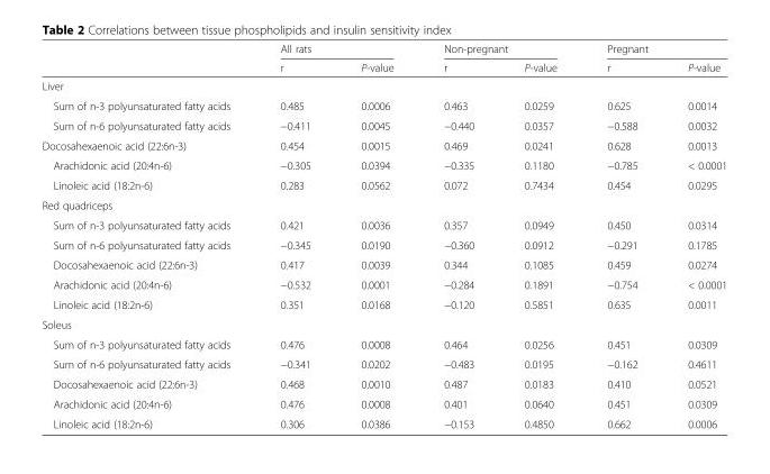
<table><thead><tr><td rowspan="2"></td><td colspan="2">All rats</td><td colspan="2">Non-pregnant</td><td colspan="2">Pregnant</td></tr><tr><td>r</td><td>P-value</td><td>r</td><td>P-value</td><td>r</td><td>P-value</td></tr></thead><tbody><tr><td colspan="7">Liver</td></tr><tr><td>Sum of n-3 polyunsaturated fatty acids</td><td>0.485</td><td>0.0006</td><td>0.463</td><td>0.0259</td><td>0.625</td><td>0.0014</td></tr><tr><td>Sum of n-6 polyunsaturated fatty acids</td><td>−0.411</td><td>0.0045</td><td>−0.440</td><td>0.0357</td><td>−0.588</td><td>0.0032</td></tr><tr><td>Docosahexaenoic acid (22:6n-3)</td><td>0.454</td><td>0.0015</td><td>0.469</td><td>0.0241</td><td>0.628</td><td>0.0013</td></tr><tr><td>Arachidonic acid (20:4n-6)</td><td>−0.305</td><td>0.0394</td><td>−0.335</td><td>0.1180</td><td>−0.785</td><td>&lt; 0.0001</td></tr><tr><td>Linoleic acid (18:2n-6)</td><td>0.283</td><td>0.0562</td><td>0.072</td><td>0.7434</td><td>0.454</td><td>0.0295</td></tr><tr><td colspan="7">Red quadriceps</td></tr><tr><td>Sum of n-3 polyunsaturated fatty acids</td><td>0.421</td><td>0.0036</td><td>0.357</td><td>0.0949</td><td>0.450</td><td>0.0314</td></tr><tr><td>Sum of n-6 polyunsaturated fatty acids</td><td>−0.345</td><td>0.0190</td><td>−0.360</td><td>0.0912</td><td>−0.291</td><td>0.1785</td></tr><tr><td>Docosahexaenoic acid (22:6n-3)</td><td>0.417</td><td>0.0039</td><td>0.344</td><td>0.1085</td><td>0.459</td><td>0.0274</td></tr><tr><td>Arachidonic acid (20:4n-6)</td><td>−0.532</td><td>0.0001</td><td>−0.284</td><td>0.1891</td><td>−0.754</td><td>&lt; 0.0001</td></tr><tr><td>Linoleic acid (18:2n-6)</td><td>0.351</td><td>0.0168</td><td>−0.120</td><td>0.5851</td><td>0.635</td><td>0.0011</td></tr><tr><td colspan="7">Soleus</td></tr><tr><td>Sum of n-3 polyunsaturated fatty acids</td><td>0.476</td><td>0.0008</td><td>0.464</td><td>0.0256</td><td>0.451</td><td>0.0309</td></tr><tr><td>Sum of n-6 polyunsaturated fatty acids</td><td>−0.341</td><td>0.0202</td><td>−0.483</td><td>0.0195</td><td>−0.162</td><td>0.4611</td></tr><tr><td>Docosahexaenoic acid (22:6n-3)</td><td>0.468</td><td>0.0010</td><td>0.487</td><td>0.0183</td><td>0.410</td><td>0.0521</td></tr><tr><td>Arachidonic acid (20:4n-6)</td><td>0.476</td><td>0.0008</td><td>0.401</td><td>0.0640</td><td>0.451</td><td>0.0309</td></tr><tr><td>Linoleic acid (18:2n-6)</td><td>0.306</td><td>0.0386</td><td>−0.153</td><td>0.4850</td><td>0.662</td><td>0.0006</td></tr></tbody></table>